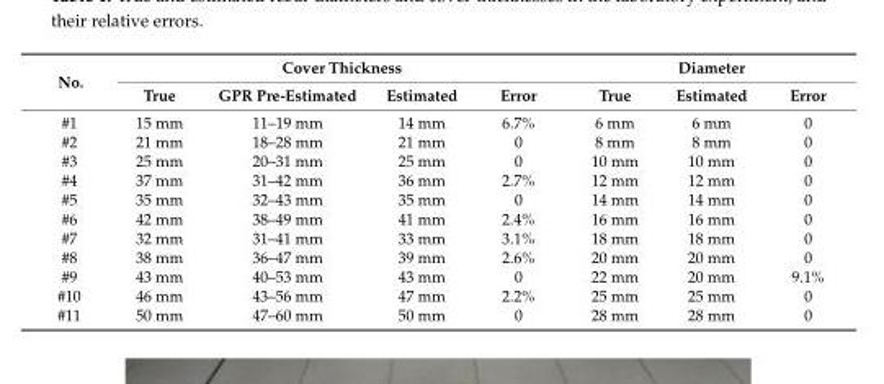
<table><thead><tr><td rowspan="2">No.</td><td colspan="4">Cover Thickness</td><td colspan="3">Diameter</td></tr><tr><td>True</td><td>GPR Pre-Estimated</td><td>Estimated</td><td>Error</td><td>True</td><td>Estimated</td><td>Error</td></tr></thead><tbody><tr><td>#1</td><td>15 mm</td><td>11–19 mm</td><td>14 mm</td><td>6.7%</td><td>6 mm</td><td>6 mm</td><td>0</td></tr><tr><td>#2</td><td>21 mm</td><td>18–28 mm</td><td>21 mm</td><td>0</td><td>8 mm</td><td>8 mm</td><td>0</td></tr><tr><td>#3</td><td>25 mm</td><td>20–31 mm</td><td>25 mm</td><td>0</td><td>10 mm</td><td>10 mm</td><td>0</td></tr><tr><td>#4</td><td>37 mm</td><td>31–42 mm</td><td>36 mm</td><td>2.7%</td><td>12 mm</td><td>12 mm</td><td>0</td></tr><tr><td>#5</td><td>35 mm</td><td>32–43 mm</td><td>35 mm</td><td>0</td><td>14 mm</td><td>14 mm</td><td>0</td></tr><tr><td>#6</td><td>42 mm</td><td>38–49 mm</td><td>41 mm</td><td>2.4%</td><td>16 mm</td><td>16 mm</td><td>0</td></tr><tr><td>#7</td><td>32 mm</td><td>31–41 mm</td><td>33 mm</td><td>3.1%</td><td>18 mm</td><td>18 mm</td><td>0</td></tr><tr><td>#8</td><td>38 mm</td><td>36–47 mm</td><td>39 mm</td><td>2.6%</td><td>20 mm</td><td>20 mm</td><td>0</td></tr><tr><td>#9</td><td>43 mm</td><td>40–53 mm</td><td>43 mm</td><td>0</td><td>22 mm</td><td>20 mm</td><td>9.1%</td></tr><tr><td>#10</td><td>46 mm</td><td>43–56 mm</td><td>47 mm</td><td>2.2%</td><td>25 mm</td><td>25 mm</td><td>0</td></tr><tr><td>#11</td><td>50 mm</td><td>47–60 mm</td><td>50 mm</td><td>0</td><td>28 mm</td><td>28 mm</td><td>0</td></tr></tbody></table>